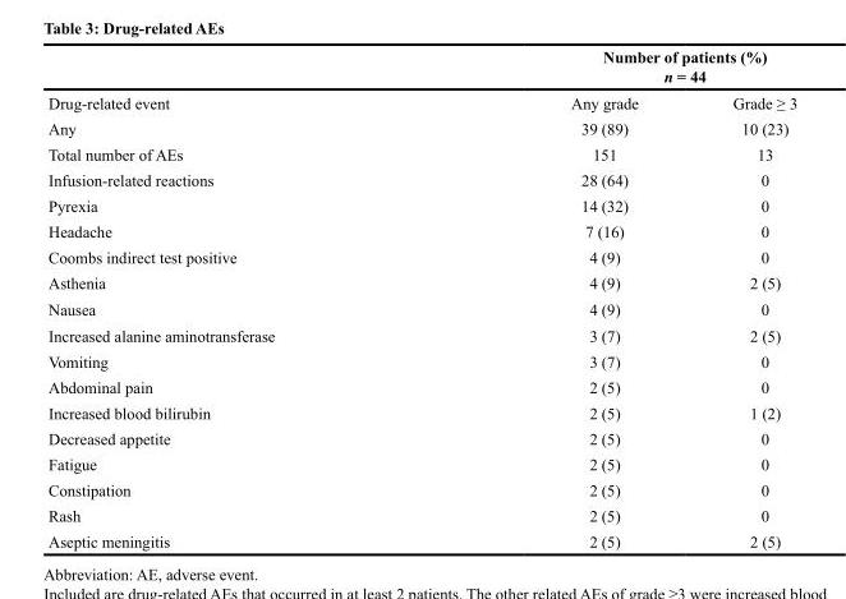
<table><thead><tr><td rowspan="2">Drug-related event</td><td colspan="2">Number of patients (%) n = 44</td></tr><tr><td>Any grade</td><td>Grade ≥ 3</td></tr></thead><tbody><tr><td>Any</td><td>39 (89)</td><td>10 (23)</td></tr><tr><td>Total number of AEs</td><td>151</td><td>13</td></tr><tr><td>Infusion-related reactions</td><td>28 (64)</td><td>0</td></tr><tr><td>Pyrexia</td><td>14 (32)</td><td>0</td></tr><tr><td>Headache</td><td>7 (16)</td><td>0</td></tr><tr><td>Coombs indirect test positive</td><td>4 (9)</td><td>0</td></tr><tr><td>Asthenia</td><td>4 (9)</td><td>2 (5)</td></tr><tr><td>Nausea</td><td>4 (9)</td><td>0</td></tr><tr><td>Increased alanine aminotransferase</td><td>3 (7)</td><td>2 (5)</td></tr><tr><td>Vomiting</td><td>3 (7)</td><td>0</td></tr><tr><td>Abdominal pain</td><td>2 (5)</td><td>0</td></tr><tr><td>Increased blood bilirubin</td><td>2 (5)</td><td>1 (2)</td></tr><tr><td>Decreased appetite</td><td>2 (5)</td><td>0</td></tr><tr><td>Fatigue</td><td>2 (5)</td><td>0</td></tr><tr><td>Constipation</td><td>2 (5)</td><td>0</td></tr><tr><td>Rash</td><td>2 (5)</td><td>0</td></tr><tr><td>Aseptic meningitis</td><td>2 (5)</td><td>2 (5)</td></tr></tbody></table>